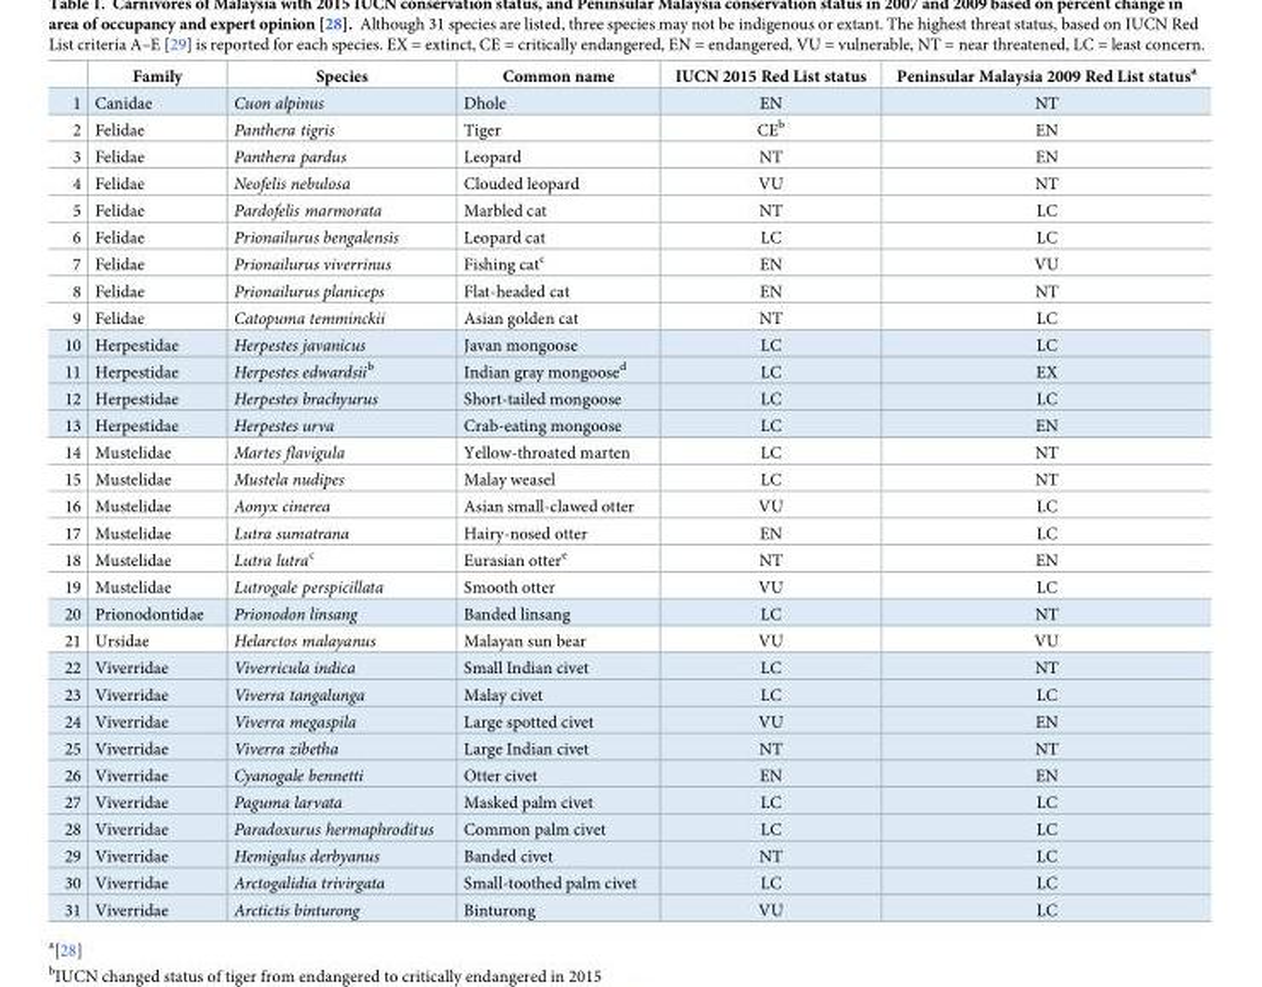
<table><thead><tr><td></td><td>Family</td><td>Species</td><td>Common name</td><td>IUCN 2015 Red List status</td><td>Peninsular Malaysia 2009 Red List status<sup>a</sup></td></tr></thead><tbody><tr><td>1</td><td>Canidae</td><td>Cuon alpinus</td><td>Dhole</td><td>EN</td><td>NT</td></tr><tr><td>2</td><td>Felidae</td><td>Panthera tigris</td><td>Tiger</td><td>CE<sup>b</sup></td><td>EN</td></tr><tr><td>3</td><td>Felidae</td><td>Panthera pardus</td><td>Leopard</td><td>NT</td><td>EN</td></tr><tr><td>4</td><td>Felidae</td><td>Neofelis nebulosa</td><td>Clouded leopard</td><td>VU</td><td>NT</td></tr><tr><td>5</td><td>Felidae</td><td>Pardofelis marmorata</td><td>Marbled cat</td><td>NT</td><td>LC</td></tr><tr><td>6</td><td>Felidae</td><td>Prionailurus bengalensis</td><td>Leopard cat</td><td>LC</td><td>LC</td></tr><tr><td>7</td><td>Felidae</td><td>Prionailurus viverrinus</td><td>Fishing cat<sup>c</sup></td><td>EN</td><td>VU</td></tr><tr><td>8</td><td>Felidae</td><td>Prionailurus planiceps</td><td>Flat-headed cat</td><td>EN</td><td>NT</td></tr><tr><td>9</td><td>Felidae</td><td>Catopuma temminckii</td><td>Asian golden cat</td><td>NT</td><td>LC</td></tr><tr><td>10</td><td>Herpestidae</td><td>Herpestes javanicus</td><td>Javan mongoose</td><td>LC</td><td>LC</td></tr><tr><td>11</td><td>Herpestidae</td><td>Herpestes edwardsii<sup>b</sup></td><td>Indian gray mongoose<sup>d</sup></td><td>LC</td><td>EX</td></tr><tr><td>12</td><td>Herpestidae</td><td>Herpestes brachyurus</td><td>Short-tailed mongoose</td><td>LC</td><td>LC</td></tr><tr><td>13</td><td>Herpestidae</td><td>Herpestes urva</td><td>Crab-eating mongoose</td><td>LC</td><td>EN</td></tr><tr><td>14</td><td>Mustelidae</td><td>Martes flavigula</td><td>Yellow-throated marten</td><td>LC</td><td>NT</td></tr><tr><td>15</td><td>Mustelidae</td><td>Mustela nudipes</td><td>Malay weasel</td><td>LC</td><td>NT</td></tr><tr><td>16</td><td>Mustelidae</td><td>Aonyx cinerea</td><td>Asian small-clawed otter</td><td>VU</td><td>LC</td></tr><tr><td>17</td><td>Mustelidae</td><td>Lutra sumatrana</td><td>Hairy-nosed otter</td><td>EN</td><td>LC</td></tr><tr><td>18</td><td>Mustelidae</td><td>Lutra lutra<sup>c</sup></td><td>Eurasian otter<sup>e</sup></td><td>NT</td><td>EN</td></tr><tr><td>19</td><td>Mustelidae</td><td>Lutrogale perspicillata</td><td>Smooth otter</td><td>VU</td><td>LC</td></tr><tr><td>20</td><td>Prionodontidae</td><td>Prionodon linsang</td><td>Banded linsang</td><td>LC</td><td>NT</td></tr><tr><td>21</td><td>Ursidae</td><td>Helarctos malayanus</td><td>Malayan sun bear</td><td>VU</td><td>VU</td></tr><tr><td>22</td><td>Viverridae</td><td>Viverricula indica</td><td>Small Indian civet</td><td>LC</td><td>NT</td></tr><tr><td>23</td><td>Viverridae</td><td>Viverra tangalunga</td><td>Malay civet</td><td>LC</td><td>LC</td></tr><tr><td>24</td><td>Viverridae</td><td>Viverra megaspila</td><td>Large spotted civet</td><td>VU</td><td>EN</td></tr><tr><td>25</td><td>Viverridae</td><td>Viverra zibetha</td><td>Large Indian civet</td><td>NT</td><td>NT</td></tr><tr><td>26</td><td>Viverridae</td><td>Cyanogale bennetti</td><td>Otter civet</td><td>EN</td><td>EN</td></tr><tr><td>27</td><td>Viverridae</td><td>Paguma larvata</td><td>Masked palm civet</td><td>LC</td><td>LC</td></tr><tr><td>28</td><td>Viverridae</td><td>Paradoxurus hermaphroditus</td><td>Common palm civet</td><td>LC</td><td>LC</td></tr><tr><td>29</td><td>Viverridae</td><td>Hemigalus derbyanus</td><td>Banded civet</td><td>NT</td><td>LC</td></tr><tr><td>30</td><td>Viverridae</td><td>Arctogalidia trivirgata</td><td>Small-toothed palm civet</td><td>LC</td><td>LC</td></tr><tr><td>31</td><td>Viverridae</td><td>Arctictis binturong</td><td>Binturong</td><td>VU</td><td>LC</td></tr></tbody></table>